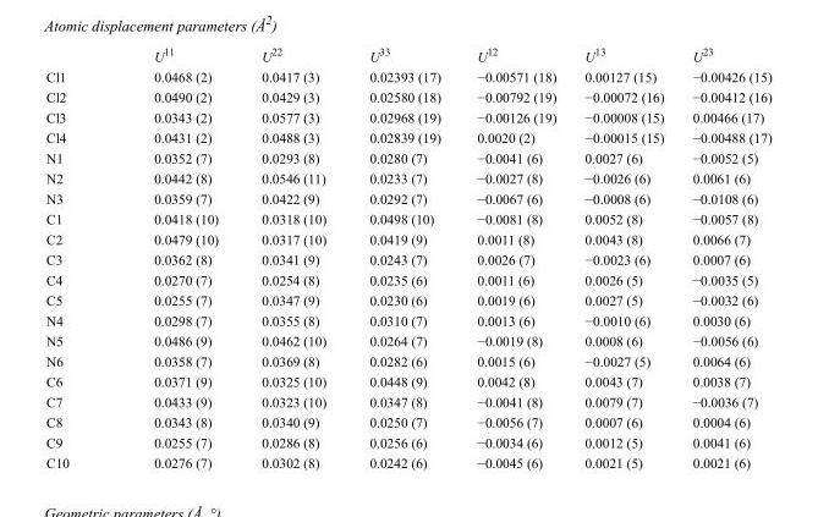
<table><thead><tr><td></td><td>U<sup>11</sup></td><td>U<sup>22</sup></td><td>U<sup>33</sup></td><td>U<sup>12</sup></td><td>U<sup>13</sup></td><td>U<sup>23</sup></td></tr></thead><tbody><tr><td>Cl1</td><td>0.0468 (2)</td><td>0.0417 (3)</td><td>0.02393 (17)</td><td>−0.00571 (18)</td><td>0.00127 (15)</td><td>−0.00426 (15)</td></tr><tr><td>Cl2</td><td>0.0490 (2)</td><td>0.0429 (3)</td><td>0.02580 (18)</td><td>−0.00792 (19)</td><td>−0.00072 (16)</td><td>−0.00412 (16)</td></tr><tr><td>Cl3</td><td>0.0343 (2)</td><td>0.0577 (3)</td><td>0.02968 (19)</td><td>−0.00126 (19)</td><td>−0.00008 (15)</td><td>0.00466 (17)</td></tr><tr><td>Cl4</td><td>0.0431 (2)</td><td>0.0488 (3)</td><td>0.02839 (19)</td><td>0.0020 (2)</td><td>−0.00015 (15)</td><td>−0.00488 (17)</td></tr><tr><td>N1</td><td>0.0352 (7)</td><td>0.0293 (8)</td><td>0.0280 (7)</td><td>−0.0041 (6)</td><td>0.0027 (6)</td><td>−0.0052 (5)</td></tr><tr><td>N2</td><td>0.0442 (8)</td><td>0.0546 (11)</td><td>0.0233 (7)</td><td>−0.0027 (8)</td><td>−0.0026 (6)</td><td>0.0061 (6)</td></tr><tr><td>N3</td><td>0.0359 (7)</td><td>0.0422 (9)</td><td>0.0292 (7)</td><td>−0.0067 (6)</td><td>−0.0008 (6)</td><td>−0.0108 (6)</td></tr><tr><td>C1</td><td>0.0418 (10)</td><td>0.0318 (10)</td><td>0.0498 (10)</td><td>−0.0081 (8)</td><td>0.0052 (8)</td><td>−0.0057 (8)</td></tr><tr><td>C2</td><td>0.0479 (10)</td><td>0.0317 (10)</td><td>0.0419 (9)</td><td>0.0011 (8)</td><td>0.0043 (8)</td><td>0.0066 (7)</td></tr><tr><td>C3</td><td>0.0362 (8)</td><td>0.0341 (9)</td><td>0.0243 (7)</td><td>0.0026 (7)</td><td>−0.0023 (6)</td><td>0.0007 (6)</td></tr><tr><td>C4</td><td>0.0270 (7)</td><td>0.0254 (8)</td><td>0.0235 (6)</td><td>0.0011 (6)</td><td>0.0026 (5)</td><td>−0.0035 (5)</td></tr><tr><td>C5</td><td>0.0255 (7)</td><td>0.0347 (9)</td><td>0.0230 (6)</td><td>0.0019 (6)</td><td>0.0027 (5)</td><td>−0.0032 (6)</td></tr><tr><td>N4</td><td>0.0298 (7)</td><td>0.0355 (8)</td><td>0.0310 (7)</td><td>0.0013 (6)</td><td>−0.0010 (6)</td><td>0.0030 (6)</td></tr><tr><td>N5</td><td>0.0486 (9)</td><td>0.0462 (10)</td><td>0.0264 (7)</td><td>−0.0019 (8)</td><td>0.0008 (6)</td><td>−0.0056 (6)</td></tr><tr><td>N6</td><td>0.0358 (7)</td><td>0.0369 (8)</td><td>0.0282 (6)</td><td>0.0015 (6)</td><td>−0.0027 (5)</td><td>0.0064 (6)</td></tr><tr><td>C6</td><td>0.0371 (9)</td><td>0.0325 (10)</td><td>0.0448 (9)</td><td>0.0042 (8)</td><td>0.0043 (7)</td><td>0.0038 (7)</td></tr><tr><td>C7</td><td>0.0433 (9)</td><td>0.0323 (10)</td><td>0.0347 (8)</td><td>−0.0041 (8)</td><td>0.0079 (7)</td><td>−0.0036 (7)</td></tr><tr><td>C8</td><td>0.0343 (8)</td><td>0.0340 (9)</td><td>0.0250 (7)</td><td>−0.0056 (7)</td><td>0.0007 (6)</td><td>0.0004 (6)</td></tr><tr><td>C9</td><td>0.0255 (7)</td><td>0.0286 (8)</td><td>0.0256 (6)</td><td>−0.0034 (6)</td><td>0.0012 (5)</td><td>0.0041 (6)</td></tr><tr><td>C10</td><td>0.0276 (7)</td><td>0.0302 (8)</td><td>0.0242 (6)</td><td>−0.0045 (6)</td><td>0.0021 (5)</td><td>0.0021 (6)</td></tr></tbody></table>